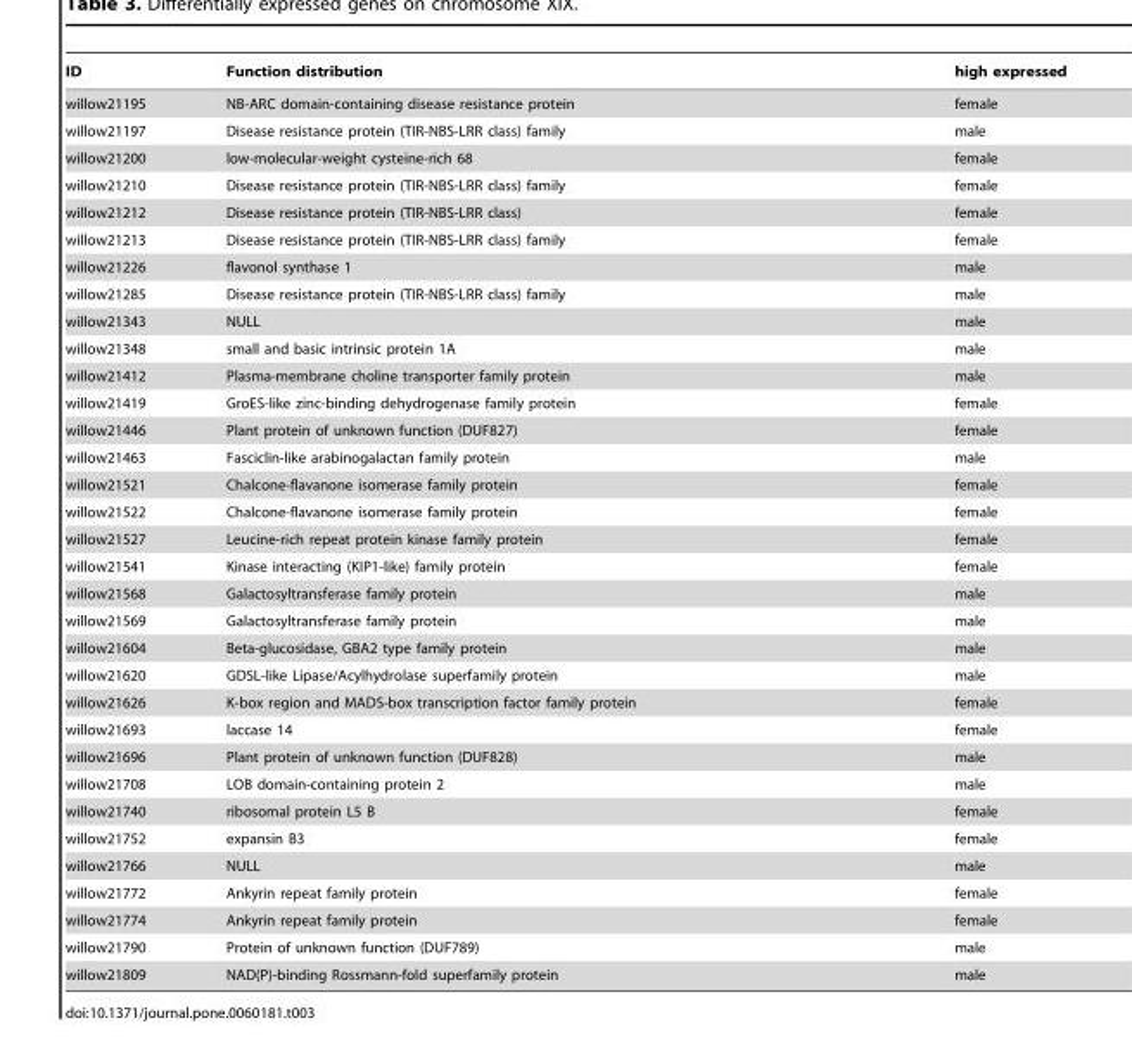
<table><thead><tr><td>ID</td><td>Function distribution</td><td>high expressed</td></tr></thead><tbody><tr><td>willow21195</td><td>NB-ARC domain-containing disease resistance protein</td><td>female</td></tr><tr><td>willow21197</td><td>Disease resistance protein (TIR-NBS-LRR class) family</td><td>male</td></tr><tr><td>willow21200</td><td>low-molecular-weight cysteine-rich 68</td><td>female</td></tr><tr><td>willow21210</td><td>Disease resistance protein (TIR-NBS-LRR class) family</td><td>female</td></tr><tr><td>willow21212</td><td>Disease resistance protein (TIR-NBS-LRR class)</td><td>female</td></tr><tr><td>willow21213</td><td>Disease resistance protein (TIR-NBS-LRR class) family</td><td>female</td></tr><tr><td>willow21226</td><td>flavonol synthase 1</td><td>male</td></tr><tr><td>willow21285</td><td>Disease resistance protein (TIR-NBS-LRR class) family</td><td>male</td></tr><tr><td>willow21343</td><td>NULL</td><td>male</td></tr><tr><td>willow21348</td><td>small and basic intrinsic protein 1A</td><td>male</td></tr><tr><td>willow21412</td><td>Plasma-membrane choline transporter family protein</td><td>male</td></tr><tr><td>willow21419</td><td>GroES-like zinc-binding dehydrogenase family protein</td><td>female</td></tr><tr><td>willow21446</td><td>Plant protein of unknown function (DUF827)</td><td>female</td></tr><tr><td>willow21463</td><td>Fasciclin-like arabinogalactan family protein</td><td>male</td></tr><tr><td>willow21521</td><td>Chalcone-flavanone isomerase family protein</td><td>female</td></tr><tr><td>willow21522</td><td>Chalcone-flavanone isomerase family protein</td><td>female</td></tr><tr><td>willow21527</td><td>Leucine-rich repeat protein kinase family protein</td><td>female</td></tr><tr><td>willow21541</td><td>Kinase interacting (KIP1-like) family protein</td><td>female</td></tr><tr><td>willow21568</td><td>Galactosyltransferase family protein</td><td>male</td></tr><tr><td>willow21569</td><td>Galactosyltransferase family protein</td><td>male</td></tr><tr><td>willow21604</td><td>Beta-glucosidase, GBA2 type family protein</td><td>male</td></tr><tr><td>willow21620</td><td>GDSL-like Lipase/Acylhydrolase superfamily protein</td><td>male</td></tr><tr><td>willow21626</td><td>K-box region and MADS-box transcription factor family protein</td><td>female</td></tr><tr><td>willow21693</td><td>laccase 14</td><td>female</td></tr><tr><td>willow21696</td><td>Plant protein of unknown function (DUF828)</td><td>male</td></tr><tr><td>willow21708</td><td>LOB domain-containing protein 2</td><td>male</td></tr><tr><td>willow21740</td><td>ribosomal protein L5 B</td><td>female</td></tr><tr><td>willow21752</td><td>expansin B3</td><td>female</td></tr><tr><td>willow21766</td><td>NULL</td><td>male</td></tr><tr><td>willow21772</td><td>Ankyrin repeat family protein</td><td>female</td></tr><tr><td>willow21774</td><td>Ankyrin repeat family protein</td><td>female</td></tr><tr><td>willow21790</td><td>Protein of unknown function (DUF789)</td><td>male</td></tr><tr><td>willow21809</td><td>NAD(P)-binding Rossmann-fold superfamily protein</td><td>male</td></tr></tbody></table>